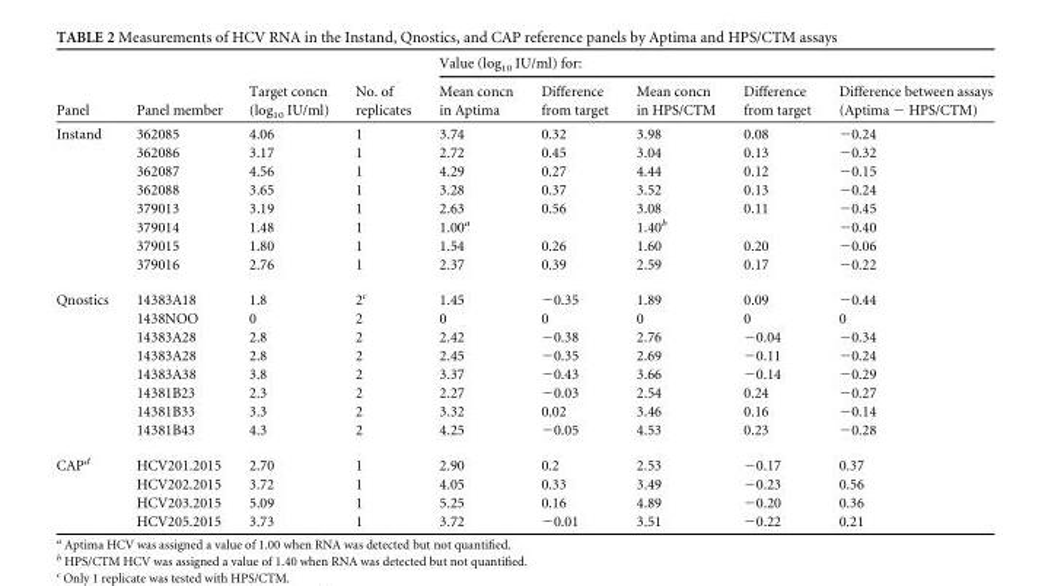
<table><thead><tr><td rowspan="2">Panel</td><td rowspan="2">Panel member</td><td rowspan="2">Target concn (log<sub>10</sub> IU/ml)</td><td rowspan="2">No. of replicates</td><td colspan="5">Value (log<sub>10</sub> IU/ml) for:</td></tr><tr><td>Mean concn in Aptima</td><td>Difference from target</td><td>Mean concn in HPS/CTM</td><td>Difference from target</td><td>Difference between assays (Aptima − HPS/CTM)</td></tr></thead><tbody><tr><td rowspan="8">Instand</td><td>362085</td><td>4.06</td><td>1</td><td>3.74</td><td>0.32</td><td>3.98</td><td>0.08</td><td>−0.24</td></tr><tr><td>362086</td><td>3.17</td><td>1</td><td>2.72</td><td>0.45</td><td>3.04</td><td>0.13</td><td>−0.32</td></tr><tr><td>362087</td><td>4.56</td><td>1</td><td>4.29</td><td>0.27</td><td>4.44</td><td>0.12</td><td>−0.15</td></tr><tr><td>362088</td><td>3.65</td><td>1</td><td>3.28</td><td>0.37</td><td>3.52</td><td>0.13</td><td>−0.24</td></tr><tr><td>379013</td><td>3.19</td><td>1</td><td>2.63</td><td>0.56</td><td>3.08</td><td>0.11</td><td>−0.45</td></tr><tr><td>379014</td><td>1.48</td><td>1</td><td>1.00<sup>a</sup></td><td></td><td>1.40<sup>b</sup></td><td></td><td>−0.40</td></tr><tr><td>379015</td><td>1.80</td><td>1</td><td>1.54</td><td>0.26</td><td>1.60</td><td>0.20</td><td>−0.06</td></tr><tr><td>379016</td><td>2.76</td><td>1</td><td>2.37</td><td>0.39</td><td>2.59</td><td>0.17</td><td>−0.22</td></tr><tr><td rowspan="8">Qnostics</td><td>14383A18</td><td>1.8</td><td>2<sup>c</sup></td><td>1.45</td><td>−0.35</td><td>1.89</td><td>0.09</td><td>−0.44</td></tr><tr><td>1438NOO</td><td>0</td><td>2</td><td>0</td><td>0</td><td>0</td><td>0</td><td>0</td></tr><tr><td>14383A28</td><td>2.8</td><td>2</td><td>2.42</td><td>−0.38</td><td>2.76</td><td>−0.04</td><td>−0.34</td></tr><tr><td>14383A28</td><td>2.8</td><td>2</td><td>2.45</td><td>−0.35</td><td>2.69</td><td>−0.11</td><td>−0.24</td></tr><tr><td>14383A38</td><td>3.8</td><td>2</td><td>3.37</td><td>−0.43</td><td>3.66</td><td>−0.14</td><td>−0.29</td></tr><tr><td>14381B23</td><td>2.3</td><td>2</td><td>2.27</td><td>−0.03</td><td>2.54</td><td>0.24</td><td>−0.27</td></tr><tr><td>14381B33</td><td>3.3</td><td>2</td><td>3.32</td><td>0.02</td><td>3.46</td><td>0.16</td><td>−0.14</td></tr><tr><td>14381B43</td><td>4.3</td><td>2</td><td>4.25</td><td>−0.05</td><td>4.53</td><td>0.23</td><td>−0.28</td></tr><tr><td rowspan="4">CAP<sup>d</sup></td><td>HCV201.2015</td><td>2.70</td><td>1</td><td>2.90</td><td>0.2</td><td>2.53</td><td>−0.17</td><td>0.37</td></tr><tr><td>HCV202.2015</td><td>3.72</td><td>1</td><td>4.05</td><td>0.33</td><td>3.49</td><td>−0.23</td><td>0.56</td></tr><tr><td>HCV203.2015</td><td>5.09</td><td>1</td><td>5.25</td><td>0.16</td><td>4.89</td><td>−0.20</td><td>0.36</td></tr><tr><td>HCV205.2015</td><td>3.73</td><td>1</td><td>3.72</td><td>−0.01</td><td>3.51</td><td>−0.22</td><td>0.21</td></tr></tbody></table>